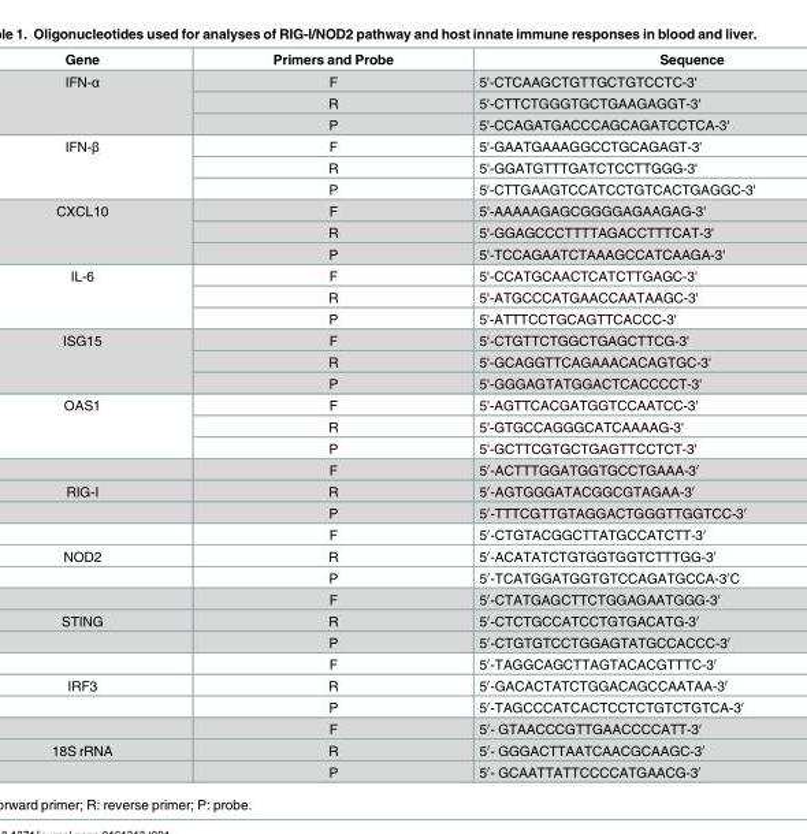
<table><thead><tr><td>Gene</td><td>Primers and Probe</td><td>Sequence</td></tr></thead><tbody><tr><td rowspan="3">IFN-α</td><td>F</td><td>5&#x27;-CTCAAGCTGTTGCTGTCCTC-3&#x27;</td></tr><tr><td>R</td><td>5&#x27;-CTTCTGGGTGCTGAAGAGGT-3&#x27;</td></tr><tr><td>P</td><td>5&#x27;-CCAGATGACCCAGCAGATCCTCA-3&#x27;</td></tr><tr><td rowspan="3">IFN-β</td><td>F</td><td>5&#x27;-GAATGAAAGGCCTGCAGAGT-3&#x27;</td></tr><tr><td>R</td><td>5&#x27;-GGATGTTTGATCTCCTTGGG-3&#x27;</td></tr><tr><td>P</td><td>5&#x27;-CTTGAAGTCCATCCTGTCACTGAGGC-3&#x27;</td></tr><tr><td rowspan="3">CXCL10</td><td>F</td><td>5&#x27;-AAAAAGAGCGGGGAGAAGAG-3&#x27;</td></tr><tr><td>R</td><td>5&#x27;-GGAGCCCTTTTAGACCTTTCAT-3&#x27;</td></tr><tr><td>P</td><td>5&#x27;-TCCAGAATCTAAAGCCATCAAGA-3&#x27;</td></tr><tr><td rowspan="3">IL-6</td><td>F</td><td>5&#x27;-CCATGCAACTCATCTTGAGC-3&#x27;</td></tr><tr><td>R</td><td>5&#x27;-ATGCCCATGAACCAATAAGC-3&#x27;</td></tr><tr><td>P</td><td>5&#x27;-ATTTCCTGCAGTTCACCC-3&#x27;</td></tr><tr><td rowspan="3">ISG15</td><td>F</td><td>5&#x27;-CTGTTCTGGCTGAGCTTCG-3&#x27;</td></tr><tr><td>R</td><td>5&#x27;-GCAGGTTCAGAAACACAGTGC-3&#x27;</td></tr><tr><td>P</td><td>5&#x27;-GGGAGTATGGACTCACCCCT-3&#x27;</td></tr><tr><td rowspan="4">OAS1</td><td>F</td><td>5&#x27;-AGTTCACGATGGTCCAATCC-3&#x27;</td></tr><tr><td>R</td><td>5&#x27;-GTGCCAGGGCATCAAAAG-3&#x27;</td></tr><tr><td>P</td><td>5&#x27;-GCTTCGTGCTGAGTTCCTCT-3&#x27;</td></tr><tr><td>F</td><td>5’-ACTTTGGATGGTGCCTGAAA-3’</td></tr><tr><td rowspan="3">RIG-I</td><td>R</td><td>5’-AGTGGGATACGGCGTAGAA-3’</td></tr><tr><td>P</td><td>5’-TTTCGTTGTAGGACTGGGTTGGTCC-3’</td></tr><tr><td>F</td><td>5’-CTGTACGGCTTATGCCATCTT-3’</td></tr><tr><td rowspan="3">NOD2</td><td>R</td><td>5’-ACATATCTGTGGTGGTCTTTGG-3’</td></tr><tr><td>P</td><td>5’-TCATGGATGGTGTCCAGATGCCA-3’C</td></tr><tr><td>F</td><td>5’-CTATGAGCTTCTGGAGAATGGG-3’</td></tr><tr><td rowspan="3">STING</td><td>R</td><td>5’-CTCTGCCATCCTGTGACATG-3’</td></tr><tr><td>P</td><td>5’-CTGTGTCCTGGAGTATGCCACCC-3’</td></tr><tr><td>F</td><td>5’-TAGGCAGCTTAGTACACGTTTC-3’</td></tr><tr><td rowspan="3">IRF3</td><td>R</td><td>5’-GACACTATCTGGACAGCCAATAA-3’</td></tr><tr><td>P</td><td>5’-TAGCCCATCACTCCTCTGTCTGTCA-3’</td></tr><tr><td>F</td><td>5’- GTAACCCGTTGAACCCCATT-3’</td></tr><tr><td rowspan="2">18S rRNA</td><td>R</td><td>5’- GGGACTTAATCAACGCAAGC-3’</td></tr><tr><td>P</td><td>5’- GCAATTATTCCCCATGAACG-3’</td></tr></tbody></table>